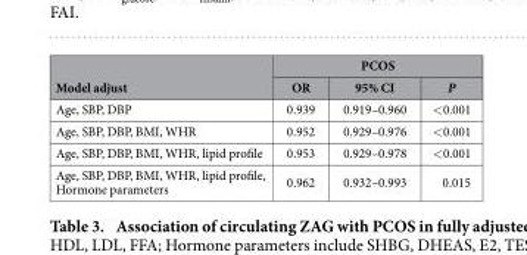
<table><thead><tr><td rowspan="2">Model adjust</td><td colspan="3">PCOS</td></tr><tr><td>OR</td><td>95% CI</td><td>P</td></tr></thead><tbody><tr><td>Age, SBP, DBP</td><td>0.939</td><td>0.919–0.960</td><td>&lt; 0.001</td></tr><tr><td>Age, SBP, DBP, BMI, WHR</td><td>0.952</td><td>0.929–0.976</td><td>&lt; 0.001</td></tr><tr><td>Age, SBP, DBP, BMI, WHR, lipid profile</td><td>0.953</td><td>0.929–0.978</td><td>&lt; 0.001</td></tr><tr><td>Age, SBP, DBP, BMI, WHR, lipid profile, Hormone parameters</td><td>0.962</td><td>0.932–0.993</td><td>0.015</td></tr></tbody></table>